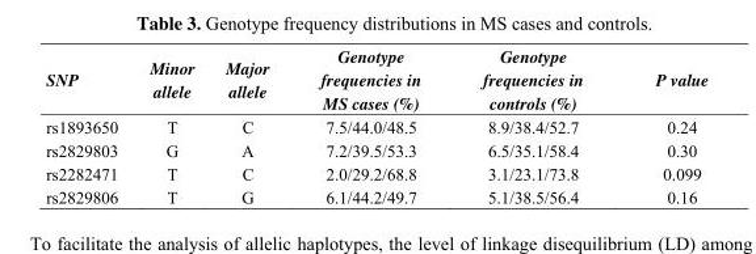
<table><thead><tr><td>SNP</td><td>Minor allele</td><td>Major allele</td><td>Genotype frequencies in MS cases (%)</td><td>Genotype frequencies in controls (%)</td><td>P value</td></tr></thead><tbody><tr><td>rs1893650</td><td>T</td><td>C</td><td>7.5/44.0/48.5</td><td>8.9/38.4/52.7</td><td>0.24</td></tr><tr><td>rs2829803</td><td>G</td><td>A</td><td>7.2/39.5/53.3</td><td>6.5/35.1/58.4</td><td>0.30</td></tr><tr><td>rs2282471</td><td>T</td><td>C</td><td>2.0/29.2/68.8</td><td>3.1/23.1/73.8</td><td>0.099</td></tr><tr><td>rs2829806</td><td>T</td><td>G</td><td>6.1/44.2/49.7</td><td>5.1/38.5/56.4</td><td>0.16</td></tr></tbody></table>